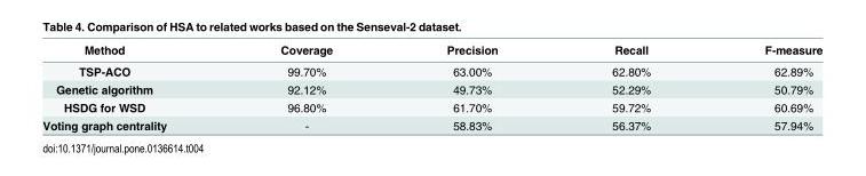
<table><thead><tr><td>Method</td><td>Coverage</td><td>Precision</td><td>Recall</td><td>F-measure</td></tr></thead><tbody><tr><td>TSP-ACO</td><td>99.70%</td><td>63.00%</td><td>62.80%</td><td>62.89%</td></tr><tr><td>Genetic algorithm</td><td>92.12%</td><td>49.73%</td><td>52.29%</td><td>50.79%</td></tr><tr><td>HSDG for WSD</td><td>96.80%</td><td>61.70%</td><td>59.72%</td><td>60.69%</td></tr><tr><td>Voting graph centrality</td><td>-</td><td>58.83%</td><td>56.37%</td><td>57.94%</td></tr></tbody></table>